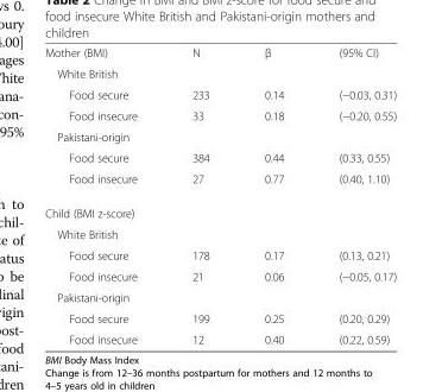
<table><tbody><tr><td>Mother (BMI)</td><td>N</td><td>β</td><td>(95% CI)</td></tr><tr><td colspan="4">White British</td></tr><tr><td>Food secure</td><td>233</td><td>0.14</td><td>(−0.03, 0.31)</td></tr><tr><td>Food insecure</td><td>33</td><td>0.18</td><td>(−0.20, 0.55)</td></tr><tr><td colspan="4">Pakistani-origin</td></tr><tr><td>Food secure</td><td>384</td><td>0.44</td><td>(0.33, 0.55)</td></tr><tr><td>Food insecure</td><td>27</td><td>0.77</td><td>(0.40, 1.10)</td></tr><tr><td>Child (BMI z-score)</td><td rowspan="2" colspan="3"></td></tr><tr><td>White British</td></tr><tr><td>Food secure</td><td>178</td><td>0.17</td><td>(0.13, 0.21)</td></tr><tr><td>Food insecure</td><td>21</td><td>0.06</td><td>(−0.05, 0.17)</td></tr><tr><td colspan="4">Pakistani-origin</td></tr><tr><td>Food secure</td><td>199</td><td>0.25</td><td>(0.20, 0.29)</td></tr><tr><td>Food insecure</td><td>12</td><td>0.40</td><td>(0.22, 0.59)</td></tr></tbody></table>